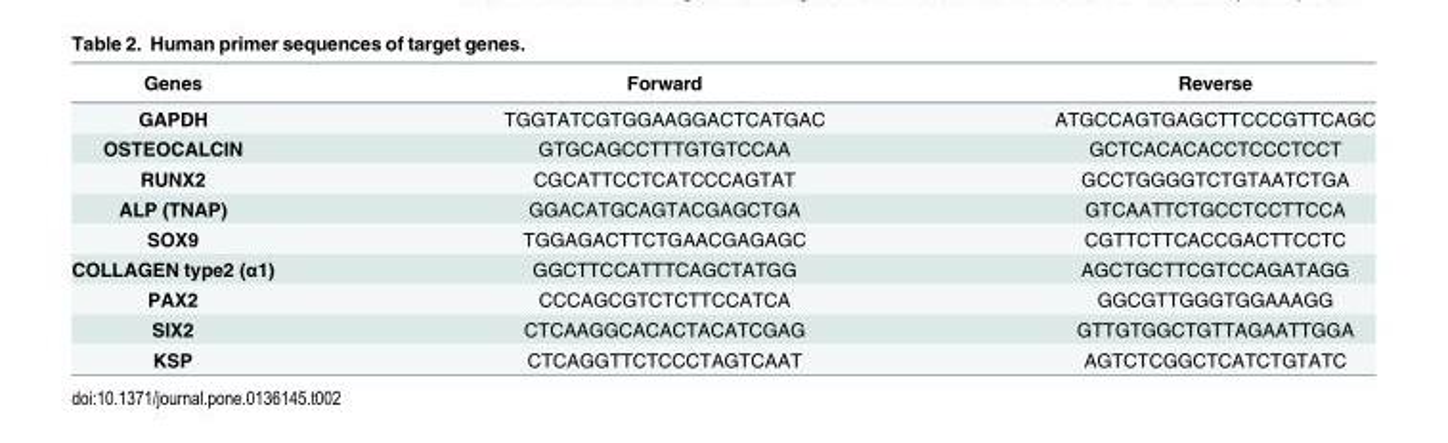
<table><thead><tr><td>Genes</td><td>Forward</td><td>Reverse</td></tr></thead><tbody><tr><td>GAPDH</td><td>TGGTATCGTGGAAGGACTCATGAC</td><td>ATGCCAGTGAGCTTCCCGTTCAGC</td></tr><tr><td>OSTEOCALCIN</td><td>GTGCAGCCTTTGTGTCCAA</td><td>GCTCACACACCTCCCTCCT</td></tr><tr><td>RUNX2</td><td>CGCATTCCTCATCCCAGTAT</td><td>GCCTGGGGTCTGTAATCTGA</td></tr><tr><td>ALP (TNAP)</td><td>GGACATGCAGTACGAGCTGA</td><td>GTCAATTCTGCCTCCTTCCA</td></tr><tr><td>SOX9</td><td>TGGAGACTTCTGAACGAGAGC</td><td>CGTTCTTCACCGACTTCCTC</td></tr><tr><td>COLLAGEN type2 (α1)</td><td>GGCTTCCATTTCAGCTATGG</td><td>AGCTGCTTCGTCCAGATAGG</td></tr><tr><td>PAX2</td><td>CCCAGCGTCTCTTCCATCA</td><td>GGCGTTGGGTGGAAAGG</td></tr><tr><td>SIX2</td><td>CTCAAGGCACACTACATCGAG</td><td>GTTGTGGCTGTTAGAATTGGA</td></tr><tr><td>KSP</td><td>CTCAGGTTCTCCCTAGTCAAT</td><td>AGTCTCGGCTCATCTGTATC</td></tr></tbody></table>